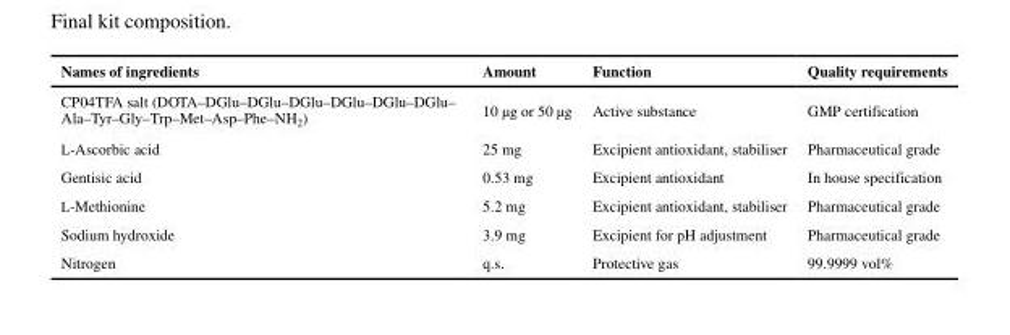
<table><thead><tr><td>Names of ingredients</td><td>Amount</td><td>Function</td><td>Quality requirements</td></tr></thead><tbody><tr><td>CP04TFA salt (DOTA–DGlu–DGlu–DGlu–DGlu–DGlu–DGlu– Ala–Tyr–Gly–Trp–Met–Asp–Phe–NH<sub>2</sub>)</td><td>10 μg or 50 μg</td><td>Active substance</td><td>GMP certification</td></tr><tr><td>L-Ascorbic acid</td><td>25 mg</td><td>Excipient antioxidant, stabiliser</td><td>Pharmaceutical grade</td></tr><tr><td>Gentisic acid</td><td>0.53 mg</td><td>Excipient antioxidant</td><td>In house specification</td></tr><tr><td>L-Methionine</td><td>5.2 mg</td><td>Excipient antioxidant, stabiliser</td><td>Pharmaceutical grade</td></tr><tr><td>Sodium hydroxide</td><td>3.9 mg</td><td>Excipient for pH adjustment</td><td>Pharmaceutical grade</td></tr><tr><td>Nitrogen</td><td>q.s.</td><td>Protective gas</td><td>99.9999 vol%</td></tr></tbody></table>